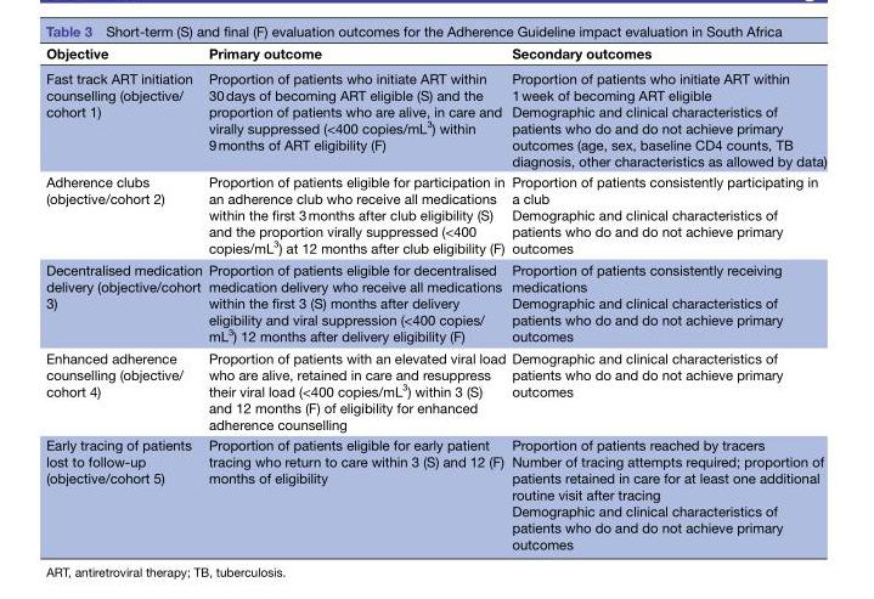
<table><thead><tr><td>Objective</td><td>Primary outcome</td><td>Secondary outcomes</td></tr></thead><tbody><tr><td>Fast track ART initiation counselling (objective/ cohort 1)</td><td>Proportion of patients who initiate ART within 30 days of becoming ART eligible (S) and the proportion of patients who are alive, in care and virally suppressed (&lt;400 copies/mL<sup>3</sup>) within 9 months of ART eligibility (F)</td><td>Proportion of patients who initiate ART within 1 week of becoming ART eligible Demographic and clinical characteristics of patients who do and do not achieve primary outcomes (age, sex, baseline CD4 counts, TB diagnosis, other characteristics as allowed by data)</td></tr><tr><td>Adherence clubs (objective/cohort 2)</td><td>Proportion of patients eligible for participation in an adherence club who receive all medications within the first 3 months after club eligibility (S) and the proportion virally suppressed (&lt;400 copies/mL<sup>3</sup>) at 12 months after club eligibility (F)</td><td>Proportion of patients consistently participating in a club Demographic and clinical characteristics of patients who do and do not achieve primary outcomes</td></tr><tr><td>Decentralised medication delivery (objective/cohort 3)</td><td>Proportion of patients eligible for decentralised medication delivery who receive all medications within the first 3 (S) months after delivery eligibility and viral suppression (&lt;400 copies/ mL<sup>3</sup>) 12 months after delivery eligibility (F)</td><td>Proportion of patients consistently receiving medications Demographic and clinical characteristics of patients who do and do not achieve primary outcomes</td></tr><tr><td>Enhanced adherence counselling (objective/ cohort 4)</td><td>Proportion of patients with an elevated viral load who are alive, retained in care and resuppress their viral load (&lt;400 copies/mL<sup>3</sup>) within 3 (S) and 12 months (F) of eligibility for enhanced adherence counselling</td><td>Demographic and clinical characteristics of patients who do and do not achieve primary outcomes</td></tr><tr><td>Early tracing of patients lost to follow-up (objective/cohort 5)</td><td>Proportion of patients eligible for early patient tracing who return to care within 3 (S) and 12 (F) months of eligibility</td><td>Proportion of patients reached by tracers Number of tracing attempts required; proportion of patients retained in care for at least one additional routine visit after tracing Demographic and clinical characteristics of patients who do and do not achieve primary outcomes</td></tr></tbody></table>